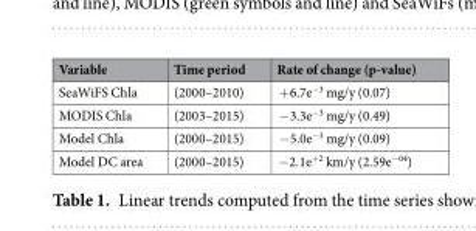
<table><thead><tr><td>Variable</td><td>Time period</td><td>Rate of change (p-value)</td></tr></thead><tbody><tr><td>SeaWiFS Chla</td><td>(2000–2010)</td><td>+6.7e<sup>−3</sup> mg/y (0.07)</td></tr><tr><td>MODIS Chla</td><td>(2003–2015)</td><td>−3.3e<sup>−3</sup> mg/y (0.49)</td></tr><tr><td>Model Chla</td><td>(2000–2015)</td><td>−5.0e<sup>−3</sup> mg/y (0.09)</td></tr><tr><td>Model DC area</td><td>(2000–2015)</td><td>−2.1e<sup>+2</sup> km/y (2.59e<sup>−04</sup>)</td></tr></tbody></table>